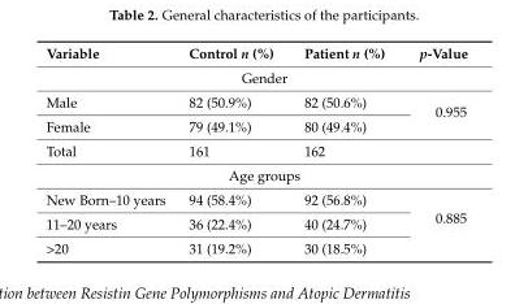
<table><thead><tr><td>Variable</td><td>Control n (%)</td><td>Patient n (%)</td><td>p-Value</td></tr></thead><tbody><tr><td colspan="4">Gender</td></tr><tr><td>Male</td><td>82 (50.9%)</td><td>82 (50.6%)</td><td rowspan="2">0.955</td></tr><tr><td>Female</td><td>79 (49.1%)</td><td>80 (49.4%)</td></tr><tr><td>Total</td><td>161</td><td>162</td><td></td></tr><tr><td colspan="4">Age groups</td></tr><tr><td>New Born–10 years</td><td>94 (58.4%)</td><td>92 (56.8%)</td><td rowspan="3">0.885</td></tr><tr><td>11–20 years</td><td>36 (22.4%)</td><td>40 (24.7%)</td></tr><tr><td>&gt;20</td><td>31 (19.2%)</td><td>30 (18.5%)</td></tr></tbody></table>